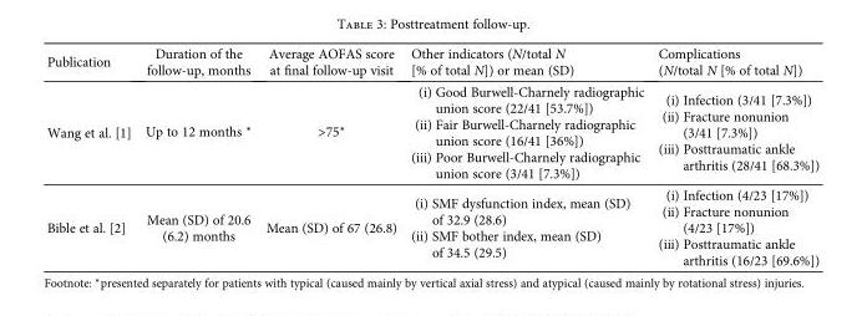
<table><thead><tr><td>Publication</td><td>Duration of the follow-up, months</td><td>Average AOFAS score at final follow-up visit</td><td>Other indicators (N/total N [% of total N]) or mean (SD)</td><td>Complications (N/total N [% of total N])</td></tr></thead><tbody><tr><td>Wang et al. [1]</td><td>Up to 12 months ∗</td><td>&gt;75∗</td><td>(i) Good Burwell-Charnely radiographic union score (22/41 [53.7%]) (ii) Fair Burwell-Charnely radiographic union score (16/41 [36%]) (iii) Poor Burwell-Charnely radiographic union score (3/41 [7.3%])</td><td>(i) Infection (3/41 [7.3%]) (ii) Fracture nonunion (3/41 [7.3%]) (iii) Posttraumatic ankle arthritis (28/41 [68.3%])</td></tr><tr><td>Bible et al. [2]</td><td>Mean (SD) of 20.6 (6.2) months</td><td>Mean (SD) of 67 (26.8)</td><td>(i) SMF dysfunction index, mean (SD) of 32.9 (28.6) (ii) SMF bother index, mean (SD) of 34.5 (29.5)</td><td>(i) Infection (4/23 [17%]) (ii) Fracture nonunion (4/23 [17%]) (iii) Posttraumatic ankle arthritis (16/23 [69.6%])</td></tr></tbody></table>